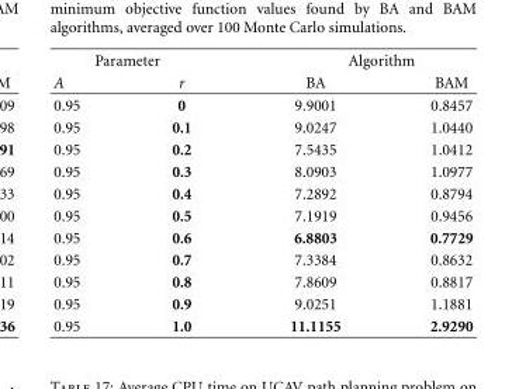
<table><thead><tr><td colspan="2">Parameter</td><td colspan="2">Algorithm</td></tr><tr><td>A</td><td>r</td><td>BA</td><td>BAM</td></tr></thead><tbody><tr><td>0.95</td><td>0</td><td>9.9001</td><td>0.8457</td></tr><tr><td>0.95</td><td>0.1</td><td>9.0247</td><td>1.0440</td></tr><tr><td>0.95</td><td>0.2</td><td>7.5435</td><td>1.0412</td></tr><tr><td>0.95</td><td>0.3</td><td>8.0903</td><td>1.0977</td></tr><tr><td>0.95</td><td>0.4</td><td>7.2892</td><td>0.8794</td></tr><tr><td>0.95</td><td>0.5</td><td>7.1919</td><td>0.9456</td></tr><tr><td>0.95</td><td>0.6</td><td>6.8803</td><td>0.7729</td></tr><tr><td>0.95</td><td>0.7</td><td>7.3384</td><td>0.8632</td></tr><tr><td>0.95</td><td>0.8</td><td>7.8609</td><td>0.8817</td></tr><tr><td>0.95</td><td>0.9</td><td>9.0251</td><td>1.1881</td></tr><tr><td>0.95</td><td>1.0</td><td>11.1155</td><td>2.9290</td></tr></tbody></table>